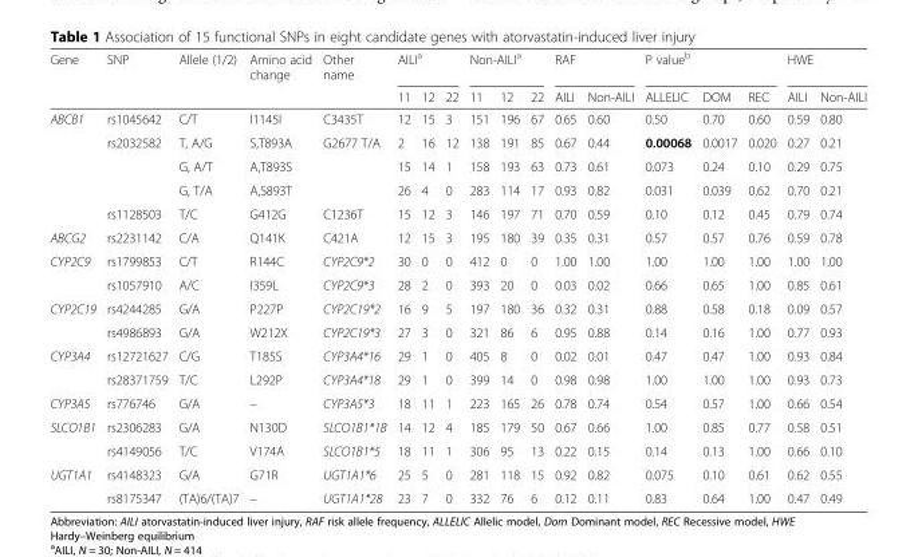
<table><thead><tr><td rowspan="2">Gene</td><td rowspan="2">SNP</td><td rowspan="2">Allele (1/2)</td><td rowspan="2">Amino acid change</td><td rowspan="2">Other name</td><td colspan="3">AILI<sup>a</sup></td><td colspan="3">Non-AILI<sup>a</sup></td><td colspan="2">RAF</td><td colspan="3">P value<sup>b</sup></td><td colspan="2">HWE</td></tr><tr><td>11</td><td>12</td><td>22</td><td>11</td><td>12</td><td>22</td><td>AILI</td><td>Non-AILI</td><td>ALLELIC</td><td>DOM</td><td>REC</td><td>AILI</td><td>Non-AILI</td></tr></thead><tbody><tr><td rowspan="5">ABCB1</td><td>rs1045642</td><td>C/T</td><td>I1145I</td><td>C3435T</td><td>12</td><td>15</td><td>3</td><td>151</td><td>196</td><td>67</td><td>0.65</td><td>0.60</td><td>0.50</td><td>0.70</td><td>0.60</td><td>0.59</td><td>0.80</td></tr><tr><td>rs2032582</td><td>T, A/G</td><td>S,T893A</td><td>G2677 T/A</td><td>2</td><td>16</td><td>12</td><td>138</td><td>191</td><td>85</td><td>0.67</td><td>0.44</td><td>0.00068</td><td>0.0017</td><td>0.020</td><td>0.27</td><td>0.21</td></tr><tr><td></td><td>G, A/T</td><td>A,T893S</td><td></td><td>15</td><td>14</td><td>1</td><td>158</td><td>193</td><td>63</td><td>0.73</td><td>0.61</td><td>0.073</td><td>0.24</td><td>0.10</td><td>0.29</td><td>0.75</td></tr><tr><td></td><td>G, T/A</td><td>A,S893T</td><td></td><td>26</td><td>4</td><td>0</td><td>283</td><td>114</td><td>17</td><td>0.93</td><td>0.82</td><td>0.031</td><td>0.039</td><td>0.62</td><td>0.70</td><td>0.21</td></tr><tr><td>rs1128503</td><td>T/C</td><td>G412G</td><td>C1236T</td><td>15</td><td>12</td><td>3</td><td>146</td><td>197</td><td>71</td><td>0.70</td><td>0.59</td><td>0.10</td><td>0.12</td><td>0.45</td><td>0.79</td><td>0.74</td></tr><tr><td>ABCG2</td><td>rs2231142</td><td>C/A</td><td>Q141K</td><td>C421A</td><td>12</td><td>15</td><td>3</td><td>195</td><td>180</td><td>39</td><td>0.35</td><td>0.31</td><td>0.57</td><td>0.57</td><td>0.76</td><td>0.59</td><td>0.78</td></tr><tr><td rowspan="2">CYP2C9</td><td>rs1799853</td><td>C/T</td><td>R144C</td><td>CYP2C9*2</td><td>30</td><td>0</td><td>0</td><td>412</td><td>0</td><td>0</td><td>1.00</td><td>1.00</td><td>1.00</td><td>1.00</td><td>1.00</td><td>1.00</td><td>1.00</td></tr><tr><td>rs1057910</td><td>A/C</td><td>I359L</td><td>CYP2C9*3</td><td>28</td><td>2</td><td>0</td><td>393</td><td>20</td><td>0</td><td>0.03</td><td>0.02</td><td>0.66</td><td>0.65</td><td>1.00</td><td>0.85</td><td>0.61</td></tr><tr><td rowspan="2">CYP2C19</td><td>rs4244285</td><td>G/A</td><td>P227P</td><td>CYP2C19*2</td><td>16</td><td>9</td><td>5</td><td>197</td><td>180</td><td>36</td><td>0.32</td><td>0.31</td><td>0.88</td><td>0.58</td><td>0.18</td><td>0.09</td><td>0.57</td></tr><tr><td>rs4986893</td><td>G/A</td><td>W212X</td><td>CYP2C19*3</td><td>27</td><td>3</td><td>0</td><td>321</td><td>86</td><td>6</td><td>0.95</td><td>0.88</td><td>0.14</td><td>0.16</td><td>1.00</td><td>0.77</td><td>0.93</td></tr><tr><td rowspan="2">CYP3A4</td><td>rs12721627</td><td>C/G</td><td>T185S</td><td>CYP3A4*16</td><td>29</td><td>1</td><td>0</td><td>405</td><td>8</td><td>0</td><td>0.02</td><td>0.01</td><td>0.47</td><td>0.47</td><td>1.00</td><td>0.93</td><td>0.84</td></tr><tr><td>rs28371759</td><td>T/C</td><td>L292P</td><td>CYP3A4*18</td><td>29</td><td>1</td><td>0</td><td>399</td><td>14</td><td>0</td><td>0.98</td><td>0.98</td><td>1.00</td><td>1.00</td><td>1.00</td><td>0.93</td><td>0.73</td></tr><tr><td>CYP3A5</td><td>rs776746</td><td>G/A</td><td>–</td><td>CYP3A5*3</td><td>18</td><td>11</td><td>1</td><td>223</td><td>165</td><td>26</td><td>0.78</td><td>0.74</td><td>0.54</td><td>0.57</td><td>1.00</td><td>0.66</td><td>0.54</td></tr><tr><td rowspan="2">SLCO1B1</td><td>rs2306283</td><td>G/A</td><td>N130D</td><td>SLCO1B1*1B</td><td>14</td><td>12</td><td>4</td><td>185</td><td>179</td><td>50</td><td>0.67</td><td>0.66</td><td>1.00</td><td>0.85</td><td>0.77</td><td>0.58</td><td>0.51</td></tr><tr><td>rs4149056</td><td>T/C</td><td>V174A</td><td>SLCO1B1*5</td><td>18</td><td>11</td><td>1</td><td>306</td><td>95</td><td>13</td><td>0.22</td><td>0.15</td><td>0.14</td><td>0.13</td><td>1.00</td><td>0.66</td><td>0.10</td></tr><tr><td rowspan="2">UGT1A1</td><td>rs4148323</td><td>G/A</td><td>G71R</td><td>UGT1A1*6</td><td>25</td><td>5</td><td>0</td><td>281</td><td>118</td><td>15</td><td>0.92</td><td>0.82</td><td>0.075</td><td>0.10</td><td>0.61</td><td>0.62</td><td>0.55</td></tr><tr><td>rs8175347</td><td>(TA)6/(TA)7</td><td>–</td><td>UGT1A1*28</td><td>23</td><td>7</td><td>0</td><td>332</td><td>76</td><td>6</td><td>0.12</td><td>0.11</td><td>0.83</td><td>0.64</td><td>1.00</td><td>0.47</td><td>0.49</td></tr></tbody></table>